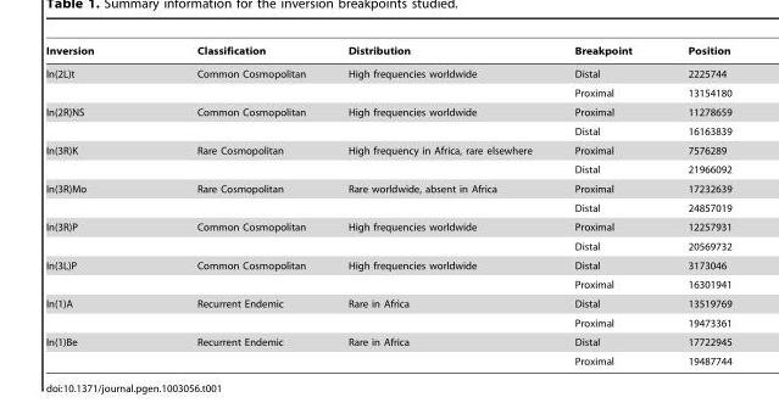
<table><thead><tr><td>Inversion</td><td>Classification</td><td>Distribution</td><td>Breakpoint</td><td>Position</td></tr></thead><tbody><tr><td rowspan="2">In(2L)t</td><td>Common Cosmopolitan</td><td>High frequencies worldwide</td><td>Distal</td><td>2225744</td></tr><tr><td></td><td></td><td>Proximal</td><td>13154180</td></tr><tr><td rowspan="2">In(2R)NS</td><td>Common Cosmopolitan</td><td>High frequencies worldwide</td><td>Proximal</td><td>11278659</td></tr><tr><td></td><td></td><td>Distal</td><td>16163839</td></tr><tr><td rowspan="2">In(3R)K</td><td>Rare Cosmopolitan</td><td>High frequency in Africa, rare elsewhere</td><td>Proximal</td><td>7576289</td></tr><tr><td></td><td></td><td>Distal</td><td>21966092</td></tr><tr><td rowspan="2">In(3R)Mo</td><td>Rare Cosmopolitan</td><td>Rare worldwide, absent in Africa</td><td>Proximal</td><td>17232639</td></tr><tr><td></td><td></td><td>Distal</td><td>24857019</td></tr><tr><td rowspan="2">In(3R)P</td><td>Common Cosmopolitan</td><td>High frequencies worldwide</td><td>Proximal</td><td>12257931</td></tr><tr><td></td><td></td><td>Distal</td><td>20569732</td></tr><tr><td rowspan="2">In(3L)P</td><td>Common Cosmopolitan</td><td>High frequencies worldwide</td><td>Distal</td><td>3173046</td></tr><tr><td></td><td></td><td>Proximal</td><td>16301941</td></tr><tr><td rowspan="2">In(1)A</td><td>Recurrent Endemic</td><td>Rare in Africa</td><td>Distal</td><td>13519769</td></tr><tr><td></td><td></td><td>Proximal</td><td>19473361</td></tr><tr><td rowspan="2">In(1)Be</td><td>Recurrent Endemic</td><td>Rare in Africa</td><td>Distal</td><td>17722945</td></tr><tr><td></td><td></td><td>Proximal</td><td>19487744</td></tr></tbody></table>